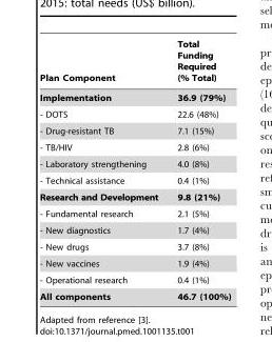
<table><thead><tr><td>Plan Component</td><td>Total Funding Required (% Total)</td></tr></thead><tbody><tr><td>Implementation</td><td>36.9 (79%)</td></tr><tr><td>- DOTS</td><td>22.6 (48%)</td></tr><tr><td>- Drug-resistant TB</td><td>7.1 (15%)</td></tr><tr><td>- TB/HIV</td><td>2.8 (6%)</td></tr><tr><td>- Laboratory strengthening</td><td>4.0 (8%)</td></tr><tr><td>- Technical assistance</td><td>0.4 (1%)</td></tr><tr><td>Research and Development</td><td>9.8 (21%)</td></tr><tr><td>- Fundamental research</td><td>2.1 (5%)</td></tr><tr><td>- New diagnostics</td><td>1.7 (4%)</td></tr><tr><td>- New drugs</td><td>3.7 (8%)</td></tr><tr><td>- New vaccines</td><td>1.9 (4%)</td></tr><tr><td>- Operational research</td><td>0.4 (1%)</td></tr><tr><td>All components</td><td>46.7 (100%)</td></tr></tbody></table>